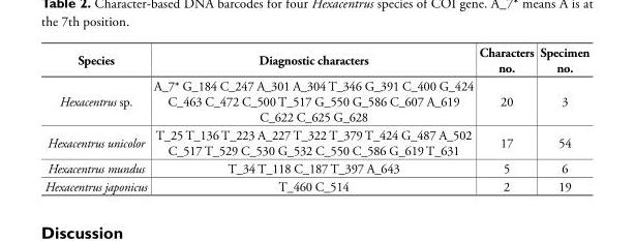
<table><thead><tr><td>Species</td><td>Diagnostic characters</td><td>Characters no.</td><td>Specimen no.</td></tr></thead><tbody><tr><td>Hexacentrus sp.</td><td>A_7* G_184 C_247 A_301 A_304 T_346 G_391 C_400 G_424 C_463 C_472 C_500 T_517 G_550 G_586 C_607 A_619 C_622 C_625 G_628</td><td>20</td><td>3</td></tr><tr><td>Hexacentrus unicolor</td><td>T_25 T_136 T_223 A_227 T_322 T_379 T_424 G_487 A_502 C_517 T_529 C_530 G_532 C_550 C_586 G_619 T_631</td><td>17</td><td>54</td></tr><tr><td>Hexacentrus mundus</td><td>T_34 T_118 C_187 T_397 A_643</td><td>5</td><td>6</td></tr><tr><td>Hexacentrus japonicus</td><td>T_460 C_514</td><td>2</td><td>19</td></tr></tbody></table>